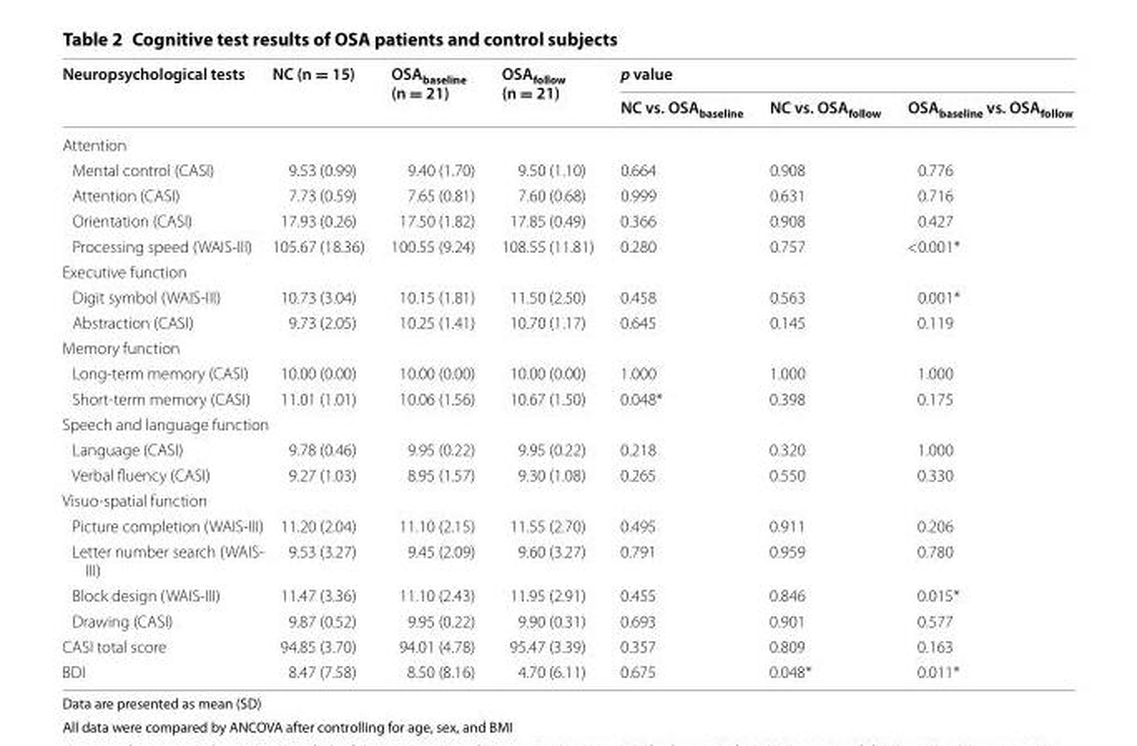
<table><thead><tr><td rowspan="2">Neuropsychological tests</td><td rowspan="2">NC (n = 15)</td><td rowspan="2">OSA<sub>baseline</sub> (n = 21)</td><td rowspan="2">OSA<sub>follow</sub> (n = 21)</td><td colspan="3">p value</td></tr><tr><td>NC vs. OSA<sub>baseline</sub></td><td>NC vs. OSA<sub>follow</sub></td><td>OSA<sub>baseline</sub> vs. OSA<sub>follow</sub></td></tr></thead><tbody><tr><td colspan="7">Attention</td></tr><tr><td>Mental control (CASI)</td><td>9.53 (0.99)</td><td>9.40 (1.70)</td><td>9.50 (1.10)</td><td>0.664</td><td>0.908</td><td>0.776</td></tr><tr><td>Attention (CASI)</td><td>7.73 (0.59)</td><td>7.65 (0.81)</td><td>7.60 (0.68)</td><td>0.999</td><td>0.631</td><td>0.716</td></tr><tr><td>Orientation (CASI)</td><td>17.93 (0.26)</td><td>17.50 (1.82)</td><td>17.85 (0.49)</td><td>0.366</td><td>0.908</td><td>0.427</td></tr><tr><td>Processing speed (WAIS‑III)</td><td>105.67 (18.36)</td><td>100.55 (9.24)</td><td>108.55 (11.81)</td><td>0.280</td><td>0.757</td><td>&lt;0.001*</td></tr><tr><td colspan="7">Executive function</td></tr><tr><td>Digit symbol (WAIS‑III)</td><td>10.73 (3.04)</td><td>10.15 (1.81)</td><td>11.50 (2.50)</td><td>0.458</td><td>0.563</td><td>0.001*</td></tr><tr><td>Abstraction (CASI)</td><td>9.73 (2.05)</td><td>10.25 (1.41)</td><td>10.70 (1.17)</td><td>0.645</td><td>0.145</td><td>0.119</td></tr><tr><td colspan="7">Memory function</td></tr><tr><td>Long‑term memory (CASI)</td><td>10.00 (0.00)</td><td>10.00 (0.00)</td><td>10.00 (0.00)</td><td>1.000</td><td>1.000</td><td>1.000</td></tr><tr><td>Short‑term memory (CASI)</td><td>11.01 (1.01)</td><td>10.06 (1.56)</td><td>10.67 (1.50)</td><td>0.048*</td><td>0.398</td><td>0.175</td></tr><tr><td colspan="7">Speech and language function</td></tr><tr><td>Language (CASI)</td><td>9.78 (0.46)</td><td>9.95 (0.22)</td><td>9.95 (0.22)</td><td>0.218</td><td>0.320</td><td>1.000</td></tr><tr><td>Verbal fluency (CASI)</td><td>9.27 (1.03)</td><td>8.95 (1.57)</td><td>9.30 (1.08)</td><td>0.265</td><td>0.550</td><td>0.330</td></tr><tr><td colspan="7">Visuo‑spatial function</td></tr><tr><td>Picture completion (WAIS‑III)</td><td>11.20 (2.04)</td><td>11.10 (2.15)</td><td>11.55 (2.70)</td><td>0.495</td><td>0.911</td><td>0.206</td></tr><tr><td>Letter number search (WAIS‑ III)</td><td>9.53 (3.27)</td><td>9.45 (2.09)</td><td>9.60 (3.27)</td><td>0.791</td><td>0.959</td><td>0.780</td></tr><tr><td>Block design (WAIS‑III)</td><td>11.47 (3.36)</td><td>11.10 (2.43)</td><td>11.95 (2.91)</td><td>0.455</td><td>0.846</td><td>0.015*</td></tr><tr><td>Drawing (CASI)</td><td>9.87 (0.52)</td><td>9.95 (0.22)</td><td>9.90 (0.31)</td><td>0.693</td><td>0.901</td><td>0.577</td></tr><tr><td>CASI total score</td><td>94.85 (3.70)</td><td>94.01 (4.78)</td><td>95.47 (3.39)</td><td>0.357</td><td>0.809</td><td>0.163</td></tr><tr><td>BDI</td><td>8.47 (7.58)</td><td>8.50 (8.16)</td><td>4.70 (6.11)</td><td>0.675</td><td>0.048*</td><td>0.011*</td></tr></tbody></table>